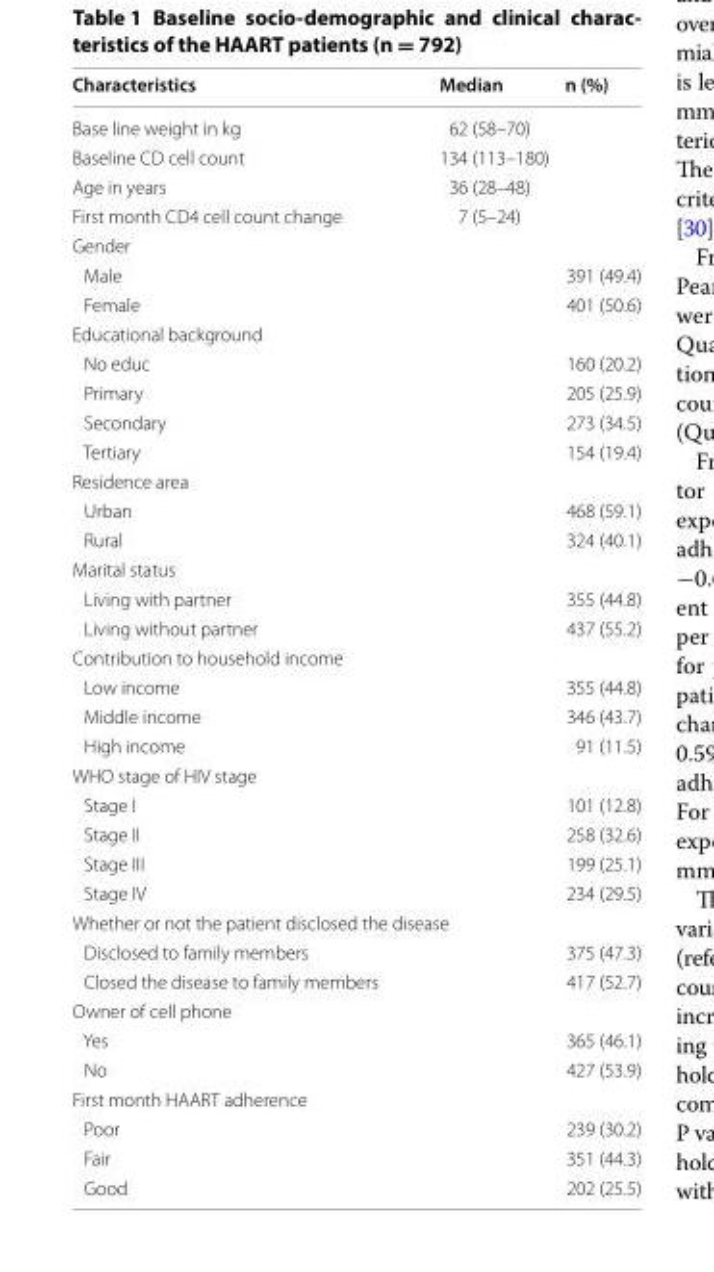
<table><thead><tr><td>Characteristics</td><td>Median</td><td>n (%)</td></tr></thead><tbody><tr><td>Base line weight in kg</td><td>62 (58–70)</td><td></td></tr><tr><td>Baseline CD cell count</td><td>134 (113–180)</td><td></td></tr><tr><td>Age in years</td><td>36 (28–48)</td><td></td></tr><tr><td>First month CD4 cell count change</td><td>7 (5–24)</td><td></td></tr><tr><td colspan="3">Gender</td></tr><tr><td colspan="2">Male</td><td>391 (49.4)</td></tr><tr><td colspan="2">Female</td><td>401 (50.6)</td></tr><tr><td colspan="3">Educational background</td></tr><tr><td colspan="2">No educ</td><td>160 (20.2)</td></tr><tr><td colspan="2">Primary</td><td>205 (25.9)</td></tr><tr><td colspan="2">Secondary</td><td>273 (34.5)</td></tr><tr><td colspan="2">Tertiary</td><td>154 (19.4)</td></tr><tr><td colspan="3">Residence area</td></tr><tr><td colspan="2">Urban</td><td>468 (59.1)</td></tr><tr><td colspan="2">Rural</td><td>324 (40.1)</td></tr><tr><td colspan="3">Marital status</td></tr><tr><td colspan="2">Living with partner</td><td>355 (44.8)</td></tr><tr><td colspan="2">Living without partner</td><td>437 (55.2)</td></tr><tr><td colspan="3">Contribution to household income</td></tr><tr><td colspan="2">Low income</td><td>355 (44.8)</td></tr><tr><td colspan="2">Middle income</td><td>346 (43.7)</td></tr><tr><td colspan="2">High income</td><td>91 (11.5)</td></tr><tr><td colspan="3">WHO stage of HIV stage</td></tr><tr><td colspan="2">Stage I</td><td>101 (12.8)</td></tr><tr><td colspan="2">Stage II</td><td>258 (32.6)</td></tr><tr><td colspan="2">Stage III</td><td>199 (25.1)</td></tr><tr><td colspan="2">Stage IV</td><td>234 (29.5)</td></tr><tr><td colspan="3">Whether or not the patient disclosed the disease</td></tr><tr><td colspan="2">Disclosed to family members</td><td>375 (47.3)</td></tr><tr><td colspan="2">Closed the disease to family members</td><td>417 (52.7)</td></tr><tr><td colspan="3">Owner of cell phone</td></tr><tr><td colspan="2">Yes</td><td>365 (46.1)</td></tr><tr><td colspan="2">No</td><td>427 (53.9)</td></tr><tr><td colspan="3">First month HAART adherence</td></tr><tr><td colspan="2">Poor</td><td>239 (30.2)</td></tr><tr><td colspan="2">Fair</td><td>351 (44.3)</td></tr><tr><td colspan="2">Good</td><td>202 (25.5)</td></tr></tbody></table>